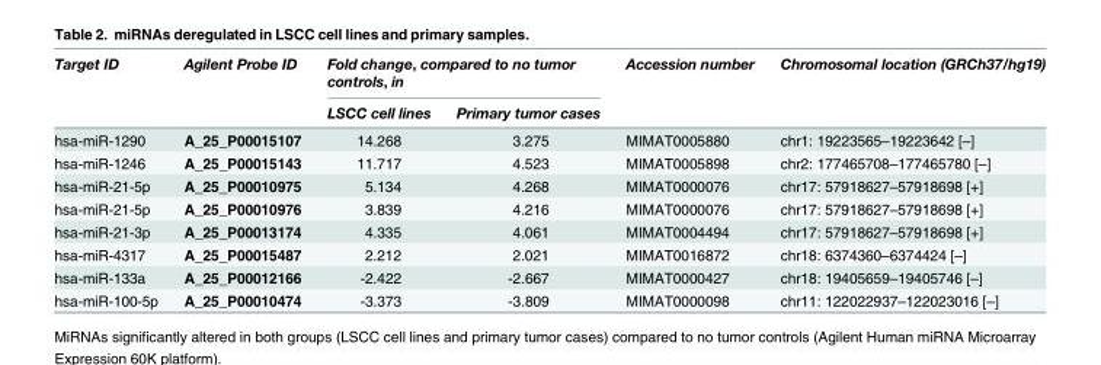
<table><thead><tr><td rowspan="2">Target ID</td><td rowspan="2">Agilent Probe ID</td><td colspan="2">Fold change, compared to no tumor controls, in</td><td rowspan="2">Accession number</td><td rowspan="2">Chromosomal location (GRCh37/hg19)</td></tr><tr><td>LSCC cell lines</td><td>Primary tumor cases</td></tr></thead><tbody><tr><td>hsa-miR-1290</td><td>A_25_P00015107</td><td>14.268</td><td>3.275</td><td>MIMAT0005880</td><td>chr1: 19223565–19223642 [–]</td></tr><tr><td>hsa-miR-1246</td><td>A_25_P00015143</td><td>11.717</td><td>4.523</td><td>MIMAT0005898</td><td>chr2: 177465708–177465780 [–]</td></tr><tr><td>hsa-miR-21-5p</td><td>A_25_P00010975</td><td>5.134</td><td>4.268</td><td>MIMAT0000076</td><td>chr17: 57918627–57918698 [+]</td></tr><tr><td>hsa-miR-21-5p</td><td>A_25_P00010976</td><td>3.839</td><td>4.216</td><td>MIMAT0000076</td><td>chr17: 57918627–57918698 [+]</td></tr><tr><td>hsa-miR-21-3p</td><td>A_25_P00013174</td><td>4.335</td><td>4.061</td><td>MIMAT0004494</td><td>chr17: 57918627–57918698 [+]</td></tr><tr><td>hsa-miR-4317</td><td>A_25_P00015487</td><td>2.212</td><td>2.021</td><td>MIMAT0016872</td><td>chr18: 6374360–6374424 [–]</td></tr><tr><td>hsa-miR-133a</td><td>A_25_P00012166</td><td>-2.422</td><td>-2.667</td><td>MIMAT0000427</td><td>chr18: 19405659–19405746 [–]</td></tr><tr><td>hsa-miR-100-5p</td><td>A_25_P00010474</td><td>-3.373</td><td>-3.809</td><td>MIMAT0000098</td><td>chr11: 122022937–122023016 [–]</td></tr></tbody></table>